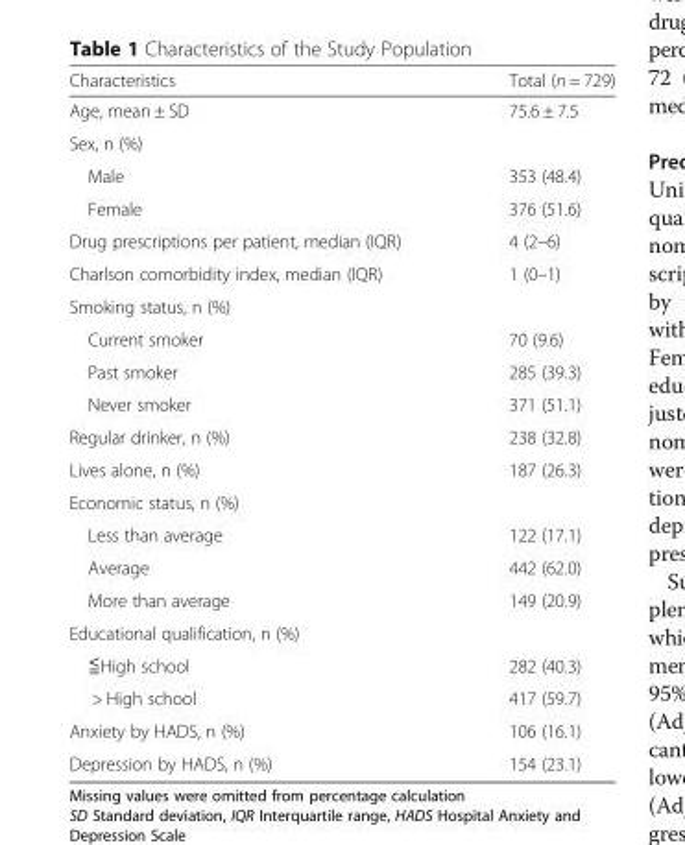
<table><thead><tr><td>Characteristics</td><td>Total (n = 729)</td></tr></thead><tbody><tr><td>Age, mean ± SD</td><td>75.6 ± 7.5</td></tr><tr><td colspan="2">Sex, n (%)</td></tr><tr><td>Male</td><td>353 (48.4)</td></tr><tr><td>Female</td><td>376 (51.6)</td></tr><tr><td>Drug prescriptions per patient, median (IQR)</td><td>4 (2–6)</td></tr><tr><td>Charlson comorbidity index, median (IQR)</td><td>1 (0–1)</td></tr><tr><td colspan="2">Smoking status, n (%)</td></tr><tr><td>Current smoker</td><td>70 (9.6)</td></tr><tr><td>Past smoker</td><td>285 (39.3)</td></tr><tr><td>Never smoker</td><td>371 (51.1)</td></tr><tr><td>Regular drinker, n (%)</td><td>238 (32.8)</td></tr><tr><td>Lives alone, n (%)</td><td>187 (26.3)</td></tr><tr><td colspan="2">Economic status, n (%)</td></tr><tr><td>Less than average</td><td>122 (17.1)</td></tr><tr><td>Average</td><td>442 (62.0)</td></tr><tr><td>More than average</td><td>149 (20.9)</td></tr><tr><td colspan="2">Educational qualification, n (%)</td></tr><tr><td>≦High school</td><td>282 (40.3)</td></tr><tr><td>&gt; High school</td><td>417 (59.7)</td></tr><tr><td>Anxiety by HADS, n (%)</td><td>106 (16.1)</td></tr><tr><td>Depression by HADS, n (%)</td><td>154 (23.1)</td></tr></tbody></table>